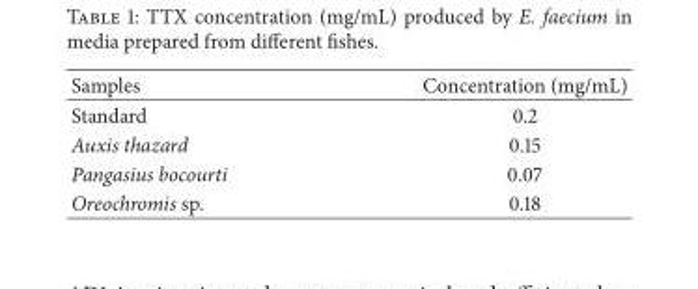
<table><thead><tr><td>Samples</td><td>Concentration (mg/mL)</td></tr></thead><tbody><tr><td>Standard</td><td>0.2</td></tr><tr><td>Auxis thazard</td><td>0.15</td></tr><tr><td>Pangasius bocourti</td><td>0.07</td></tr><tr><td>Oreochromis sp.</td><td>0.18</td></tr></tbody></table>